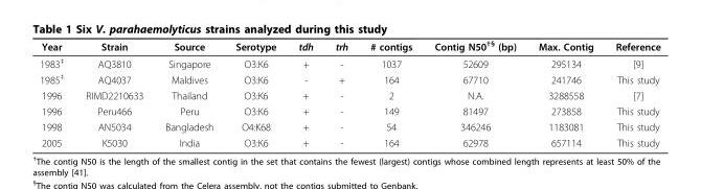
<table><thead><tr><td>Year</td><td>Strain</td><td>Source</td><td>Serotype</td><td>tdh</td><td>trh</td><td># contigs</td><td>Contig N50<sup>†§</sup> (bp)</td><td>Max. Contig</td><td>Reference</td></tr></thead><tbody><tr><td>1983<sup>‡</sup></td><td>AQ3810</td><td>Singapore</td><td>O3:K6</td><td>+</td><td>-</td><td>1037</td><td>52609</td><td>295134</td><td>[9]</td></tr><tr><td>1985<sup>‡</sup></td><td>AQ4037</td><td>Maldives</td><td>O3:K6</td><td>-</td><td>+</td><td>164</td><td>67710</td><td>241746</td><td>This study</td></tr><tr><td>1996</td><td>RIMD2210633</td><td>Thailand</td><td>O3:K6</td><td>+</td><td>-</td><td>2</td><td>N.A.</td><td>3288558</td><td>[7]</td></tr><tr><td>1996</td><td>Peru466</td><td>Peru</td><td>O3:K6</td><td>+</td><td>-</td><td>149</td><td>81497</td><td>273858</td><td>This study</td></tr><tr><td>1998</td><td>AN5034</td><td>Bangladesh</td><td>O4:K68</td><td>+</td><td>-</td><td>54</td><td>346246</td><td>1183081</td><td>This study</td></tr><tr><td>2005</td><td>K5030</td><td>India</td><td>O3:K6</td><td>+</td><td>-</td><td>164</td><td>62978</td><td>657114</td><td>This study</td></tr></tbody></table>